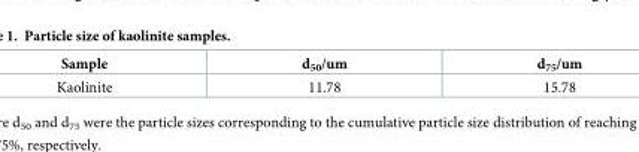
<table><thead><tr><td>Sample</td><td>d<sub>50</sub>/um</td><td>d<sub>75</sub>/um</td></tr></thead><tbody><tr><td>Kaolinite</td><td>11.78</td><td>15.78</td></tr></tbody></table>